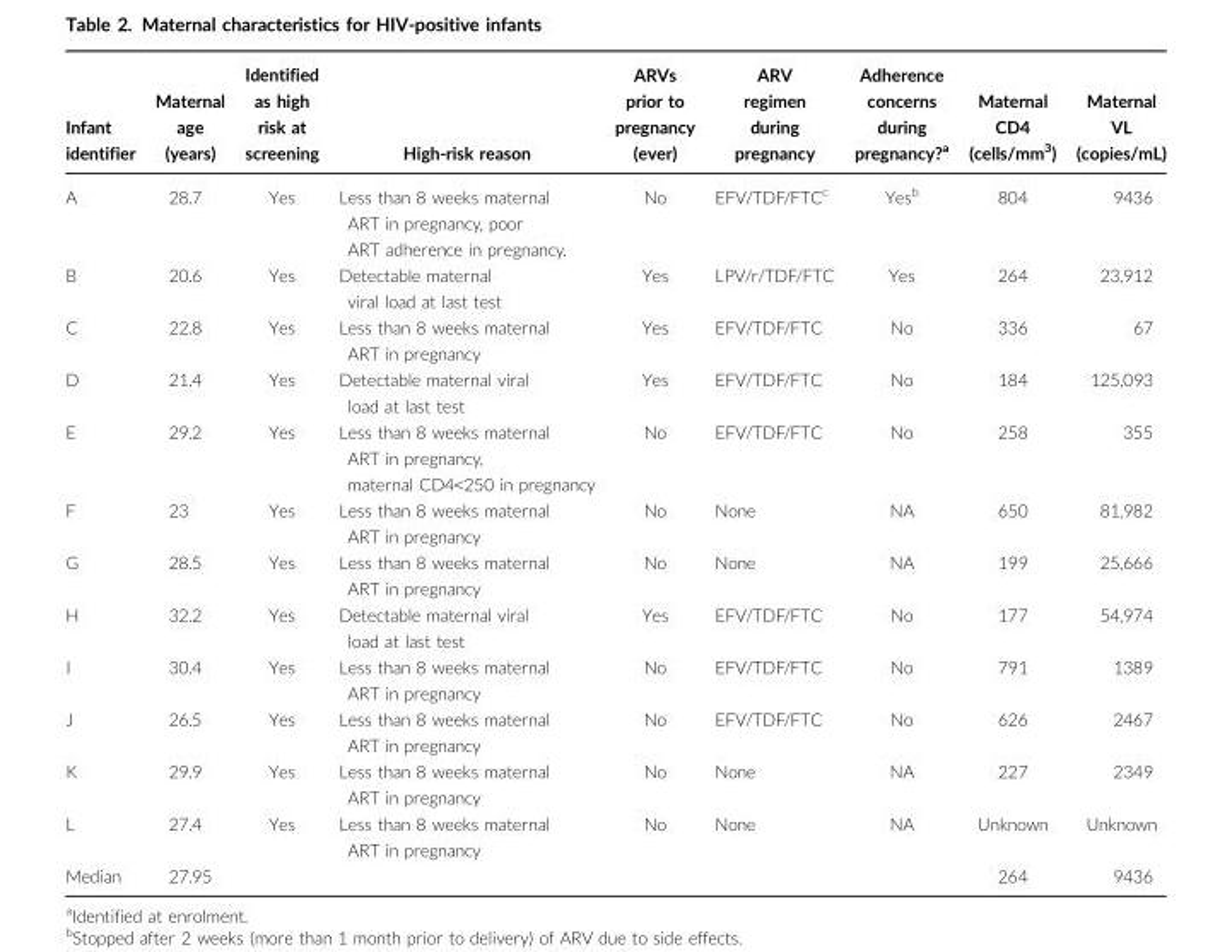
<table><thead><tr><td>Infant identifier</td><td>Maternal age (years)</td><td>Identified as high risk at screening</td><td>High-risk reason</td><td>ARVs prior to pregnancy (ever)</td><td>ARV regimen during pregnancy</td><td>Adherence concerns during pregnancy?<sup>a</sup></td><td>Maternal CD4 (cells/mm<sup>3</sup>)</td><td>Maternal VL (copies/mL)</td></tr></thead><tbody><tr><td>A</td><td>28.7</td><td>Yes</td><td>Less than 8 weeks maternal ART in pregnancy, poor ART adherence in pregnancy.</td><td>No</td><td>EFV/TDF/FTC<sup>c</sup></td><td>Yes<sup>b</sup></td><td>804</td><td>9436</td></tr><tr><td>B</td><td>20.6</td><td>Yes</td><td>Detectable maternal viral load at last test</td><td>Yes</td><td>LPV/r/TDF/FTC</td><td>Yes</td><td>264</td><td>23,912</td></tr><tr><td>C</td><td>22.8</td><td>Yes</td><td>Less than 8 weeks maternal ART in pregnancy</td><td>Yes</td><td>EFV/TDF/FTC</td><td>No</td><td>336</td><td>67</td></tr><tr><td>D</td><td>21.4</td><td>Yes</td><td>Detectable maternal viral load at last test</td><td>Yes</td><td>EFV/TDF/FTC</td><td>No</td><td>184</td><td>125,093</td></tr><tr><td>E</td><td>29.2</td><td>Yes</td><td>Less than 8 weeks maternal ART in pregnancy, maternal CD4&lt;250 in pregnancy</td><td>No</td><td>EFV/TDF/FTC</td><td>No</td><td>258</td><td>355</td></tr><tr><td>F</td><td>23</td><td>Yes</td><td>Less than 8 weeks maternal ART in pregnancy</td><td>No</td><td>None</td><td>NA</td><td>650</td><td>81,982</td></tr><tr><td>G</td><td>28.5</td><td>Yes</td><td>Less than 8 weeks maternal ART in pregnancy</td><td>No</td><td>None</td><td>NA</td><td>199</td><td>25,666</td></tr><tr><td>H</td><td>32.2</td><td>Yes</td><td>Detectable maternal viral load at last test</td><td>Yes</td><td>EFV/TDF/FTC</td><td>No</td><td>177</td><td>54,974</td></tr><tr><td>I</td><td>30.4</td><td>Yes</td><td>Less than 8 weeks maternal ART in pregnancy</td><td>No</td><td>EFV/TDF/FTC</td><td>No</td><td>791</td><td>1389</td></tr><tr><td>J</td><td>26.5</td><td>Yes</td><td>Less than 8 weeks maternal ART in pregnancy</td><td>No</td><td>EFV/TDF/FTC</td><td>No</td><td>626</td><td>2467</td></tr><tr><td>K</td><td>29.9</td><td>Yes</td><td>Less than 8 weeks maternal ART in pregnancy</td><td>No</td><td>None</td><td>NA</td><td>227</td><td>2349</td></tr><tr><td>L</td><td>27.4</td><td>Yes</td><td>Less than 8 weeks maternal ART in pregnancy</td><td>No</td><td>None</td><td>NA</td><td>Unknown</td><td>Unknown</td></tr><tr><td>Median</td><td>27.95</td><td></td><td></td><td></td><td></td><td></td><td>264</td><td>9436</td></tr></tbody></table>